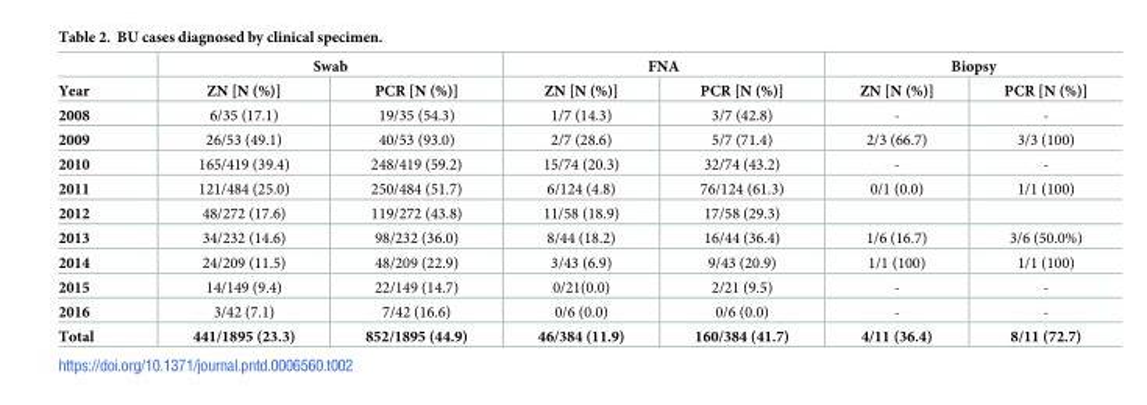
<table><thead><tr><td rowspan="2">Year</td><td colspan="2">Swab</td><td colspan="2">FNA</td><td colspan="2">Biopsy</td></tr><tr><td>ZN [N (%)]</td><td>PCR [N (%)]</td><td>ZN [N (%)]</td><td>PCR [N (%)]</td><td>ZN [N (%)]</td><td>PCR [N (%)]</td></tr></thead><tbody><tr><td>2008</td><td>6/35 (17.1)</td><td>19/35 (54.3)</td><td>1/7 (14.3)</td><td>3/7 (42.8)</td><td>-</td><td>-</td></tr><tr><td>2009</td><td>26/53 (49.1)</td><td>40/53 (93.0)</td><td>2/7 (28.6)</td><td>5/7 (71.4)</td><td>2/3 (66.7)</td><td>3/3 (100)</td></tr><tr><td>2010</td><td>165/419 (39.4)</td><td>248/419 (59.2)</td><td>15/74 (20.3)</td><td>32/74 (43.2)</td><td>-</td><td>-</td></tr><tr><td>2011</td><td>121/484 (25.0)</td><td>250/484 (51.7)</td><td>6/124 (4.8)</td><td>76/124 (61.3)</td><td>0/1 (0.0)</td><td>1/1 (100)</td></tr><tr><td>2012</td><td>48/272 (17.6)</td><td>119/272 (43.8)</td><td>11/58 (18.9)</td><td>17/58 (29.3)</td><td></td><td></td></tr><tr><td>2013</td><td>34/232 (14.6)</td><td>98/232 (36.0)</td><td>8/44 (18.2)</td><td>16/44 (36.4)</td><td>1/6 (16.7)</td><td>3/6 (50.0%)</td></tr><tr><td>2014</td><td>24/209 (11.5)</td><td>48/209 (22.9)</td><td>3/43 (6.9)</td><td>9/43 (20.9)</td><td>1/1 (100)</td><td>1/1 (100)</td></tr><tr><td>2015</td><td>14/149 (9.4)</td><td>22/149 (14.7)</td><td>0/21(0.0)</td><td>2/21 (9.5)</td><td>-</td><td>-</td></tr><tr><td>2016</td><td>3/42 (7.1)</td><td>7/42 (16.6)</td><td>0/6 (0.0)</td><td>0/6 (0.0)</td><td>-</td><td>-</td></tr><tr><td>Total</td><td>441/1895 (23.3)</td><td>852/1895 (44.9)</td><td>46/384 (11.9)</td><td>160/384 (41.7)</td><td>4/11 (36.4)</td><td>8/11 (72.7)</td></tr></tbody></table>